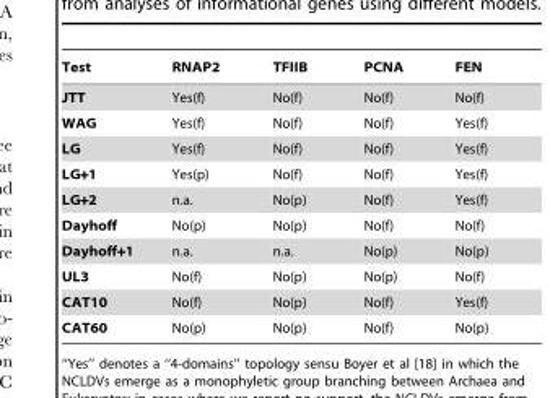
<table><thead><tr><td>Test</td><td>RNAP2</td><td>TFIIB</td><td>PCNA</td><td>FEN</td></tr></thead><tbody><tr><td>JTT</td><td>Yes(f)</td><td>No(f)</td><td>No(f)</td><td>No(f)</td></tr><tr><td>WAG</td><td>Yes(f)</td><td>No(f)</td><td>No(f)</td><td>Yes(f)</td></tr><tr><td>LG</td><td>Yes(f)</td><td>No(f)</td><td>No(f)</td><td>Yes(f)</td></tr><tr><td>LG+1</td><td>Yes(p)</td><td>No(f)</td><td>No(f)</td><td>Yes(f)</td></tr><tr><td>LG+2</td><td>n.a.</td><td>No(p)</td><td>No(f)</td><td>Yes(f)</td></tr><tr><td>Dayhoff</td><td>No(p)</td><td>No(p)</td><td>No(f)</td><td>No(f)</td></tr><tr><td>Dayhoff+1</td><td>n.a.</td><td>n.a.</td><td>No(p)</td><td>No(p)</td></tr><tr><td>UL3</td><td>No(f)</td><td>No(p)</td><td>No(p)</td><td>No(f)</td></tr><tr><td>CAT10</td><td>No(f)</td><td>No(p)</td><td>No(f)</td><td>Yes(f)</td></tr><tr><td>CAT60</td><td>No(p)</td><td>No(p)</td><td>No(f)</td><td>No(p)</td></tr></tbody></table>